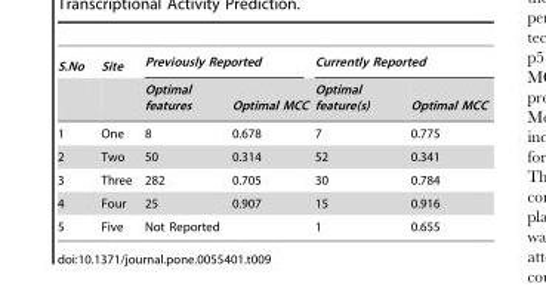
<table><thead><tr><td rowspan="2">S.No</td><td rowspan="2">Site</td><td colspan="2">Previously Reported</td><td colspan="2">Currently Reported</td></tr><tr><td>Optimal features</td><td>Optimal MCC</td><td>Optimal feature(s)</td><td>Optimal MCC</td></tr></thead><tbody><tr><td>1</td><td>One</td><td>8</td><td>0.678</td><td>7</td><td>0.775</td></tr><tr><td>2</td><td>Two</td><td>50</td><td>0.314</td><td>52</td><td>0.341</td></tr><tr><td>3</td><td>Three</td><td>282</td><td>0.705</td><td>30</td><td>0.784</td></tr><tr><td>4</td><td>Four</td><td>25</td><td>0.907</td><td>15</td><td>0.916</td></tr><tr><td>5</td><td>Five</td><td colspan="2">Not Reported</td><td>1</td><td>0.655</td></tr></tbody></table>